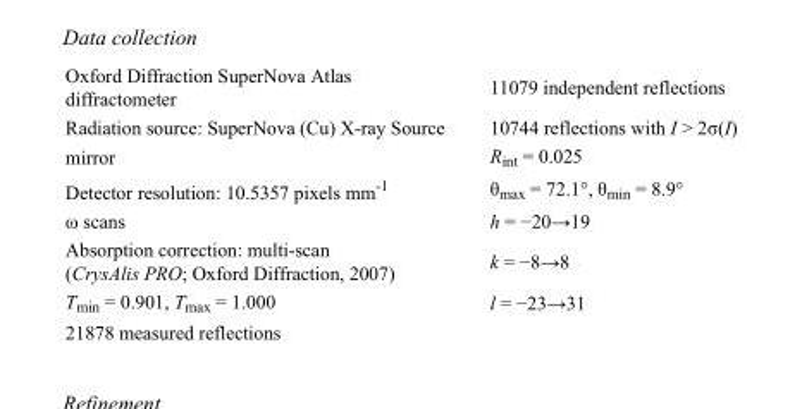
<table><tbody><tr><td>Oxford Diffraction SuperNova Atlas diffractometer</td><td>11079 independent reflections</td></tr><tr><td>Radiation source: SuperNova (Cu) X-ray Source</td><td>10744 reflections with I &gt; 2σ(I)</td></tr><tr><td>mirror</td><td>R<sub>int</sub> = 0.025</td></tr><tr><td>Detector resolution: 10.5357 pixels mm<sup>-1</sup></td><td>θ<sub>max</sub> = 72.1°, θ<sub>min</sub> = 8.9°</td></tr><tr><td>ω scans</td><td>h = −20→19</td></tr><tr><td>Absorption correction: multi-scan (CrysAlis PRO; Oxford Diffraction, 2007)</td><td>k = −8→8</td></tr><tr><td>T<sub>min</sub> = 0.901, T<sub>max</sub> = 1.000</td><td>l = −23→31</td></tr><tr><td>21878 measured reflections</td><td></td></tr></tbody></table>